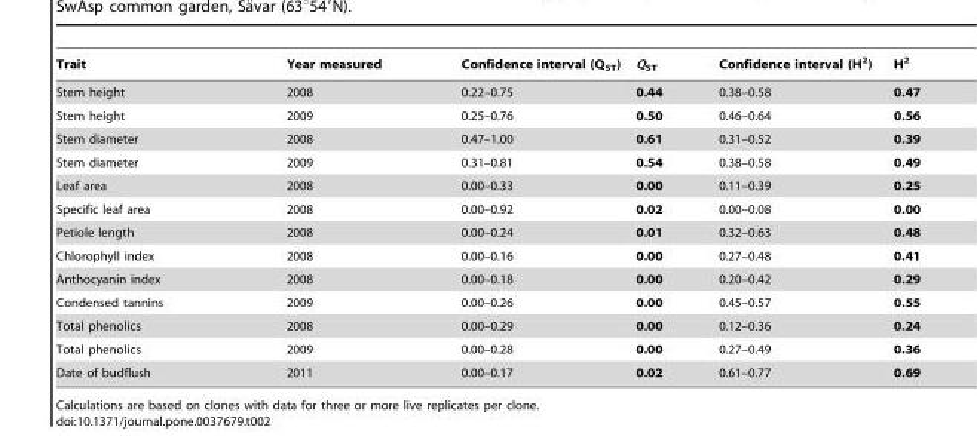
<table><thead><tr><td>Trait</td><td>Year measured</td><td>Confidence interval (Q<sub>ST</sub>)</td><td>Q<sub>ST</sub></td><td>Confidence interval (H<sup>2</sup>)</td><td>H<sup>2</sup></td></tr></thead><tbody><tr><td>Stem height</td><td>2008</td><td>0.22–0.75</td><td>0.44</td><td>0.38–0.58</td><td>0.47</td></tr><tr><td>Stem height</td><td>2009</td><td>0.25–0.76</td><td>0.50</td><td>0.46–0.64</td><td>0.56</td></tr><tr><td>Stem diameter</td><td>2008</td><td>0.47–1.00</td><td>0.61</td><td>0.31–0.52</td><td>0.39</td></tr><tr><td>Stem diameter</td><td>2009</td><td>0.31–0.81</td><td>0.54</td><td>0.38–0.58</td><td>0.49</td></tr><tr><td>Leaf area</td><td>2008</td><td>0.00–0.33</td><td>0.00</td><td>0.11–0.39</td><td>0.25</td></tr><tr><td>Specific leaf area</td><td>2008</td><td>0.00–0.92</td><td>0.02</td><td>0.00–0.08</td><td>0.00</td></tr><tr><td>Petiole length</td><td>2008</td><td>0.00–0.24</td><td>0.01</td><td>0.32–0.63</td><td>0.48</td></tr><tr><td>Chlorophyll index</td><td>2008</td><td>0.00–0.16</td><td>0.00</td><td>0.27–0.48</td><td>0.41</td></tr><tr><td>Anthocyanin index</td><td>2008</td><td>0.00–0.18</td><td>0.00</td><td>0.20–0.42</td><td>0.29</td></tr><tr><td>Condensed tannins</td><td>2009</td><td>0.00–0.26</td><td>0.00</td><td>0.45–0.57</td><td>0.55</td></tr><tr><td>Total phenolics</td><td>2008</td><td>0.00–0.29</td><td>0.00</td><td>0.12–0.36</td><td>0.24</td></tr><tr><td>Total phenolics</td><td>2009</td><td>0.00–0.28</td><td>0.00</td><td>0.27–0.49</td><td>0.36</td></tr><tr><td>Date of budflush</td><td>2011</td><td>0.00–0.17</td><td>0.02</td><td>0.61–0.77</td><td>0.69</td></tr></tbody></table>